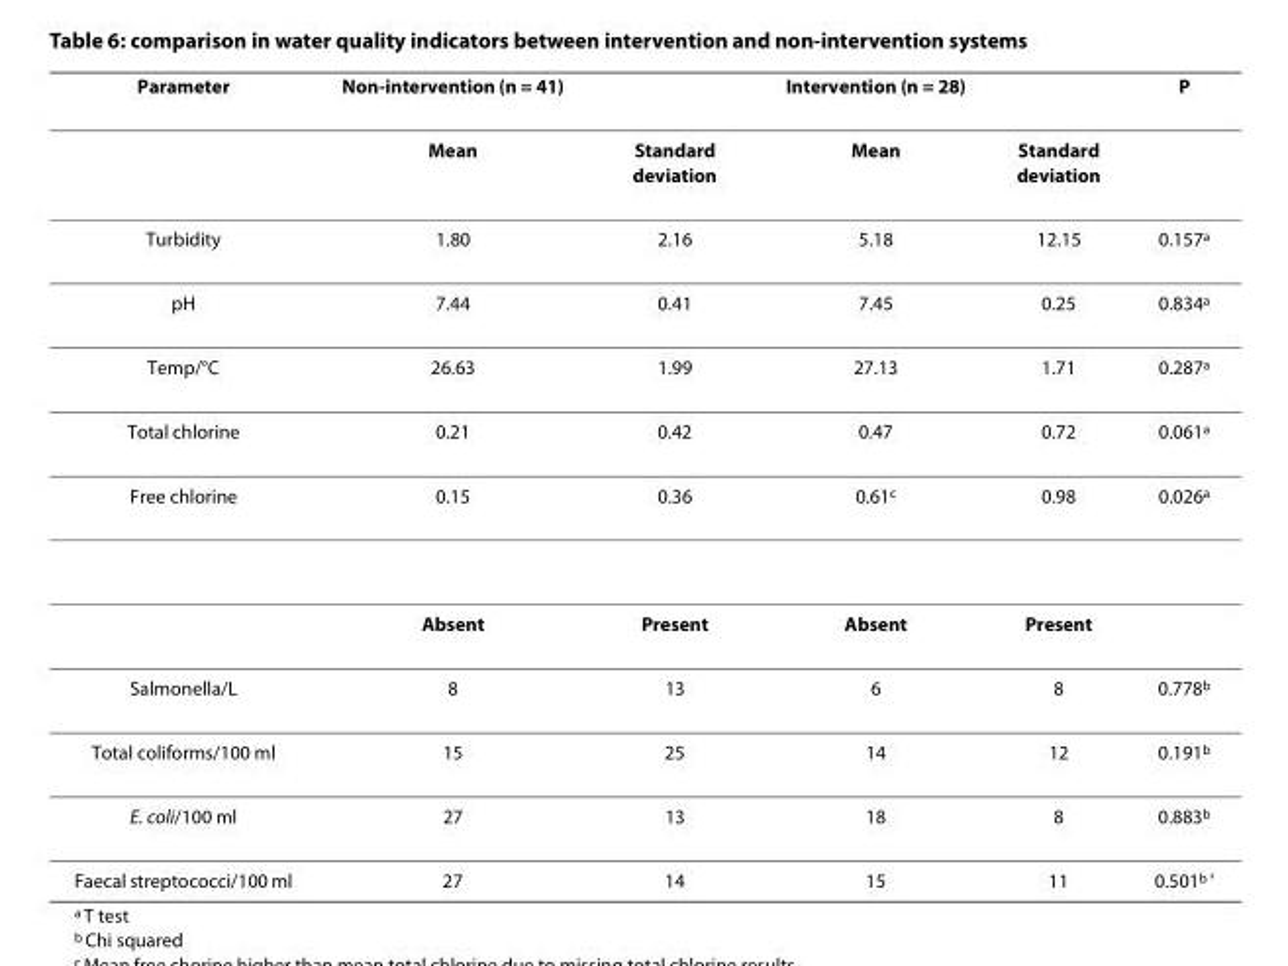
<table><thead><tr><td>Parameter</td><td>Non-intervention (n = 41)</td><td></td><td>Intervention (n = 28)</td><td></td><td>P</td></tr></thead><tbody><tr><td></td><td>Mean</td><td>Standard deviation</td><td>Mean</td><td>Standard deviation</td><td></td></tr><tr><td>Turbidity</td><td>1.80</td><td>2.16</td><td>5.18</td><td>12.15</td><td>0.157<sup>a</sup></td></tr><tr><td>pH</td><td>7.44</td><td>0.41</td><td>7.45</td><td>0.25</td><td>0.834<sup>a</sup></td></tr><tr><td>Temp/°C</td><td>26.63</td><td>1.99</td><td>27.13</td><td>1.71</td><td>0.287<sup>a</sup></td></tr><tr><td>Total chlorine</td><td>0.21</td><td>0.42</td><td>0.47</td><td>0.72</td><td>0.061<sup>a</sup></td></tr><tr><td rowspan="2">Free chlorine</td><td>0.15</td><td>0.36</td><td>0.61<sup>c</sup></td><td>0.98</td><td>0.026<sup>a</sup></td></tr><tr><td>Absent</td><td>Present</td><td>Absent</td><td>Present</td><td></td></tr><tr><td>Salmonella/L</td><td>8</td><td>13</td><td>6</td><td>8</td><td>0.778b</td></tr><tr><td>Total coliforms/100 ml</td><td>15</td><td>25</td><td>14</td><td>12</td><td>0.191b</td></tr><tr><td>E. coli/100 ml</td><td>27</td><td>13</td><td>18</td><td>8</td><td>0.883b</td></tr><tr><td>Faecal streptococci/100 ml</td><td>27</td><td>14</td><td>15</td><td>11</td><td>0.501b &#x27;</td></tr></tbody></table>